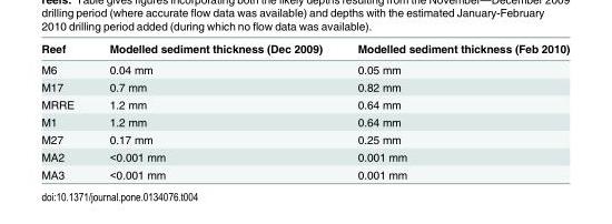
<table><thead><tr><td>Reef</td><td>Modelled sediment thickness (Dec 2009)</td><td>Modelled sediment thickness (Feb 2010)</td></tr></thead><tbody><tr><td>M6</td><td>0.04 mm</td><td>0.05 mm</td></tr><tr><td>M17</td><td>0.7 mm</td><td>0.82 mm</td></tr><tr><td>MRRE</td><td>1.2 mm</td><td>0.64 mm</td></tr><tr><td>M1</td><td>1.2 mm</td><td>0.64 mm</td></tr><tr><td>M27</td><td>0.17 mm</td><td>0.25 mm</td></tr><tr><td>MA2</td><td>&lt;0.001 mm</td><td>0.001 mm</td></tr><tr><td>MA3</td><td>&lt;0.001 mm</td><td>0.001 mm</td></tr></tbody></table>